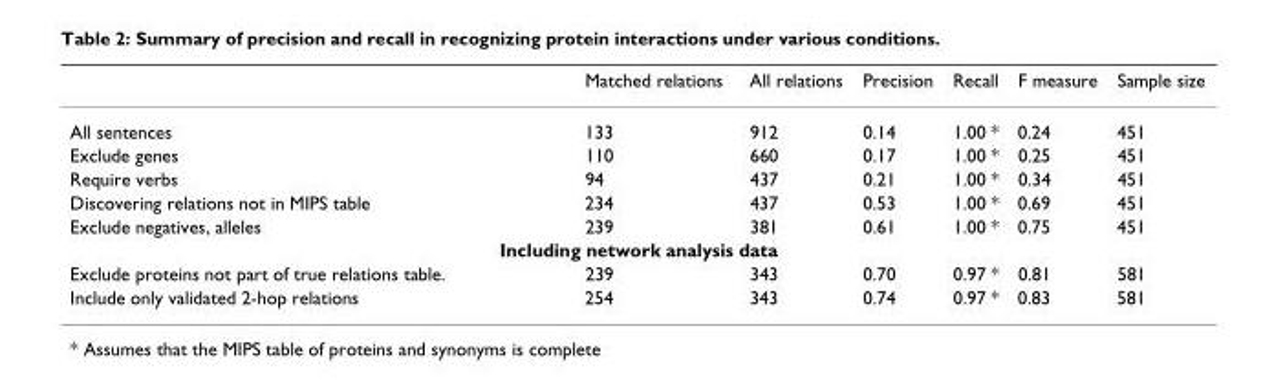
<table><thead><tr><td></td><td>Matched relations</td><td>All relations</td><td>Precision</td><td>Recall</td><td>F measure</td><td>Sample size</td></tr></thead><tbody><tr><td>All sentences</td><td>133</td><td>912</td><td>0.14</td><td>1.00 *</td><td>0.24</td><td>451</td></tr><tr><td>Exclude genes</td><td>110</td><td>660</td><td>0.17</td><td>1.00 *</td><td>0.25</td><td>451</td></tr><tr><td>Require verbs</td><td>94</td><td>437</td><td>0.21</td><td>1.00 *</td><td>0.34</td><td>451</td></tr><tr><td>Discovering relations not in MIPS table</td><td>234</td><td>437</td><td>0.53</td><td>1.00 *</td><td>0.69</td><td>451</td></tr><tr><td>Exclude negatives, alleles</td><td>239</td><td>381</td><td>0.61</td><td>1.00 *</td><td>0.75</td><td>451</td></tr><tr><td colspan="7">Including network analysis data</td></tr><tr><td>Exclude proteins not part of true relations table.</td><td>239</td><td>343</td><td>0.70</td><td>0.97 *</td><td>0.81</td><td>581</td></tr><tr><td>Include only validated 2-hop relations</td><td>254</td><td>343</td><td>0.74</td><td>0.97 *</td><td>0.83</td><td>581</td></tr></tbody></table>